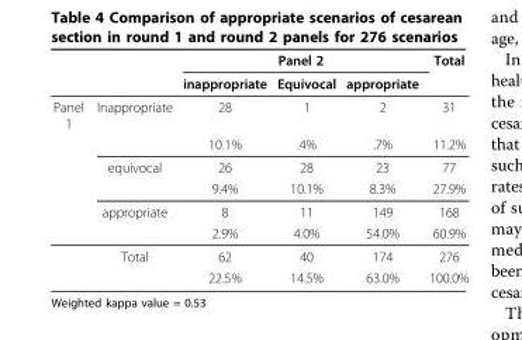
<table><thead><tr><td rowspan="2"></td><td rowspan="2"></td><td colspan="3">Panel 2</td><td rowspan="2">Total</td></tr><tr><td>inappropriate</td><td>Equivocal</td><td>appropriate</td></tr></thead><tbody><tr><td rowspan="8">Panel 1</td><td>Inappropriate</td><td>28</td><td>1</td><td>2</td><td>31</td></tr><tr><td></td><td>10.1%</td><td>.4%</td><td>.7%</td><td>11.2%</td></tr><tr><td>equivocal</td><td>26</td><td>28</td><td>23</td><td>77</td></tr><tr><td></td><td>9.4%</td><td>10.1%</td><td>8.3%</td><td>27.9%</td></tr><tr><td>appropriate</td><td>8</td><td>11</td><td>149</td><td>168</td></tr><tr><td></td><td>2.9%</td><td>4.0%</td><td>54.0%</td><td>60.9%</td></tr><tr><td>Total</td><td>62</td><td>40</td><td>174</td><td>276</td></tr><tr><td></td><td>22.5%</td><td>14.5%</td><td>63.0%</td><td>100.0%</td></tr></tbody></table>